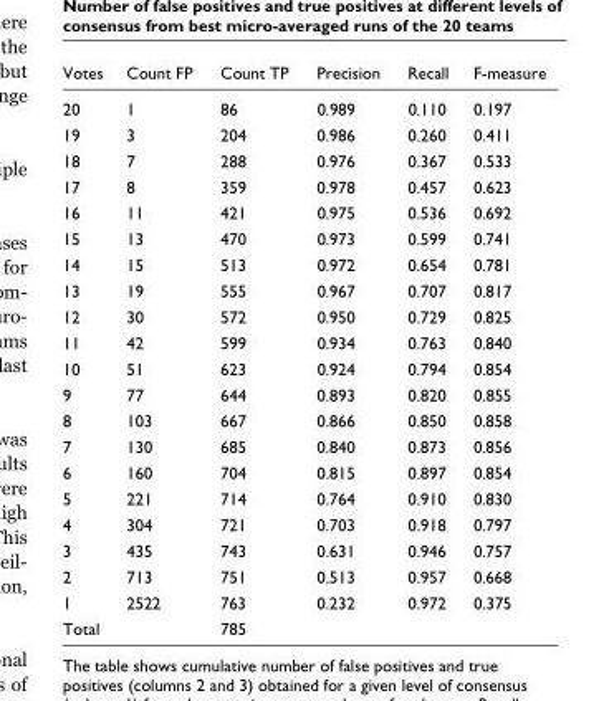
<table><thead><tr><td>Votes</td><td>Count FP</td><td>Count TP</td><td>Precision</td><td>Recall</td><td>F-measure</td></tr></thead><tbody><tr><td>20</td><td>1</td><td>86</td><td>0.989</td><td>0.110</td><td>0.197</td></tr><tr><td>19</td><td>3</td><td>204</td><td>0.986</td><td>0.260</td><td>0.411</td></tr><tr><td>18</td><td>7</td><td>288</td><td>0.976</td><td>0.367</td><td>0.533</td></tr><tr><td>17</td><td>8</td><td>359</td><td>0.978</td><td>0.457</td><td>0.623</td></tr><tr><td>16</td><td>11</td><td>421</td><td>0.975</td><td>0.536</td><td>0.692</td></tr><tr><td>15</td><td>13</td><td>470</td><td>0.973</td><td>0.599</td><td>0.741</td></tr><tr><td>14</td><td>15</td><td>513</td><td>0.972</td><td>0.654</td><td>0.781</td></tr><tr><td>13</td><td>19</td><td>555</td><td>0.967</td><td>0.707</td><td>0.817</td></tr><tr><td>12</td><td>30</td><td>572</td><td>0.950</td><td>0.729</td><td>0.825</td></tr><tr><td>11</td><td>42</td><td>599</td><td>0.934</td><td>0.763</td><td>0.840</td></tr><tr><td>10</td><td>51</td><td>623</td><td>0.924</td><td>0.794</td><td>0.854</td></tr><tr><td>9</td><td>77</td><td>644</td><td>0.893</td><td>0.820</td><td>0.855</td></tr><tr><td>8</td><td>103</td><td>667</td><td>0.866</td><td>0.850</td><td>0.858</td></tr><tr><td>7</td><td>130</td><td>685</td><td>0.840</td><td>0.873</td><td>0.856</td></tr><tr><td>6</td><td>160</td><td>704</td><td>0.815</td><td>0.897</td><td>0.854</td></tr><tr><td>5</td><td>221</td><td>714</td><td>0.764</td><td>0.910</td><td>0.830</td></tr><tr><td>4</td><td>304</td><td>721</td><td>0.703</td><td>0.918</td><td>0.797</td></tr><tr><td>3</td><td>435</td><td>743</td><td>0.631</td><td>0.946</td><td>0.757</td></tr><tr><td>2</td><td>713</td><td>751</td><td>0.513</td><td>0.957</td><td>0.668</td></tr><tr><td>1</td><td>2522</td><td>763</td><td>0.232</td><td>0.972</td><td>0.375</td></tr><tr><td>Total</td><td></td><td>785</td><td></td><td></td><td></td></tr></tbody></table>